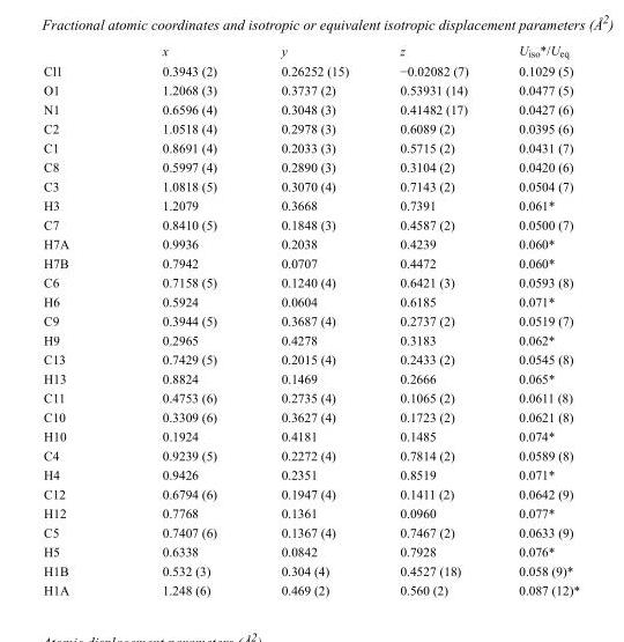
<table><thead><tr><td></td><td>x</td><td>y</td><td>z</td><td>U<sub>iso</sub>*/U<sub>eq</sub></td></tr></thead><tbody><tr><td>Cl1</td><td>0.3943 (2)</td><td>0.26252 (15)</td><td>−0.02082 (7)</td><td>0.1029 (5)</td></tr><tr><td>O1</td><td>1.2068 (3)</td><td>0.3737 (2)</td><td>0.53931 (14)</td><td>0.0477 (5)</td></tr><tr><td>N1</td><td>0.6596 (4)</td><td>0.3048 (3)</td><td>0.41482 (17)</td><td>0.0427 (6)</td></tr><tr><td>C2</td><td>1.0518 (4)</td><td>0.2978 (3)</td><td>0.6089 (2)</td><td>0.0395 (6)</td></tr><tr><td>C1</td><td>0.8691 (4)</td><td>0.2033 (3)</td><td>0.5715 (2)</td><td>0.0431 (7)</td></tr><tr><td>C8</td><td>0.5997 (4)</td><td>0.2890 (3)</td><td>0.3104 (2)</td><td>0.0420 (6)</td></tr><tr><td>C3</td><td>1.0818 (5)</td><td>0.3070 (4)</td><td>0.7143 (2)</td><td>0.0504 (7)</td></tr><tr><td>H3</td><td>1.2079</td><td>0.3668</td><td>0.7391</td><td>0.061*</td></tr><tr><td>C7</td><td>0.8410 (5)</td><td>0.1848 (3)</td><td>0.4587 (2)</td><td>0.0500 (7)</td></tr><tr><td>H7A</td><td>0.9936</td><td>0.2038</td><td>0.4239</td><td>0.060*</td></tr><tr><td>H7B</td><td>0.7942</td><td>0.0707</td><td>0.4472</td><td>0.060*</td></tr><tr><td>C6</td><td>0.7158 (5)</td><td>0.1240 (4)</td><td>0.6421 (3)</td><td>0.0593 (8)</td></tr><tr><td>H6</td><td>0.5924</td><td>0.0604</td><td>0.6185</td><td>0.071*</td></tr><tr><td>C9</td><td>0.3944 (5)</td><td>0.3687 (4)</td><td>0.2737 (2)</td><td>0.0519 (7)</td></tr><tr><td>H9</td><td>0.2965</td><td>0.4278</td><td>0.3183</td><td>0.062*</td></tr><tr><td>C13</td><td>0.7429 (5)</td><td>0.2015 (4)</td><td>0.2433 (2)</td><td>0.0545 (8)</td></tr><tr><td>H13</td><td>0.8824</td><td>0.1469</td><td>0.2666</td><td>0.065*</td></tr><tr><td>C11</td><td>0.4753 (6)</td><td>0.2735 (4)</td><td>0.1065 (2)</td><td>0.0611 (8)</td></tr><tr><td>C10</td><td>0.3309 (6)</td><td>0.3627 (4)</td><td>0.1723 (2)</td><td>0.0621 (8)</td></tr><tr><td>H10</td><td>0.1924</td><td>0.4181</td><td>0.1485</td><td>0.074*</td></tr><tr><td>C4</td><td>0.9239 (5)</td><td>0.2272 (4)</td><td>0.7814 (2)</td><td>0.0589 (8)</td></tr><tr><td>H4</td><td>0.9426</td><td>0.2351</td><td>0.8519</td><td>0.071*</td></tr><tr><td>C12</td><td>0.6794 (6)</td><td>0.1947 (4)</td><td>0.1411 (2)</td><td>0.0642 (9)</td></tr><tr><td>H12</td><td>0.7768</td><td>0.1361</td><td>0.0960</td><td>0.077*</td></tr><tr><td>C5</td><td>0.7407 (6)</td><td>0.1367 (4)</td><td>0.7467 (2)</td><td>0.0633 (9)</td></tr><tr><td>H5</td><td>0.6338</td><td>0.0842</td><td>0.7928</td><td>0.076*</td></tr><tr><td>H1B</td><td>0.532 (3)</td><td>0.304 (4)</td><td>0.4527 (18)</td><td>0.058 (9)*</td></tr><tr><td>H1A</td><td>1.248 (6)</td><td>0.469 (2)</td><td>0.560 (2)</td><td>0.087 (12)*</td></tr></tbody></table>